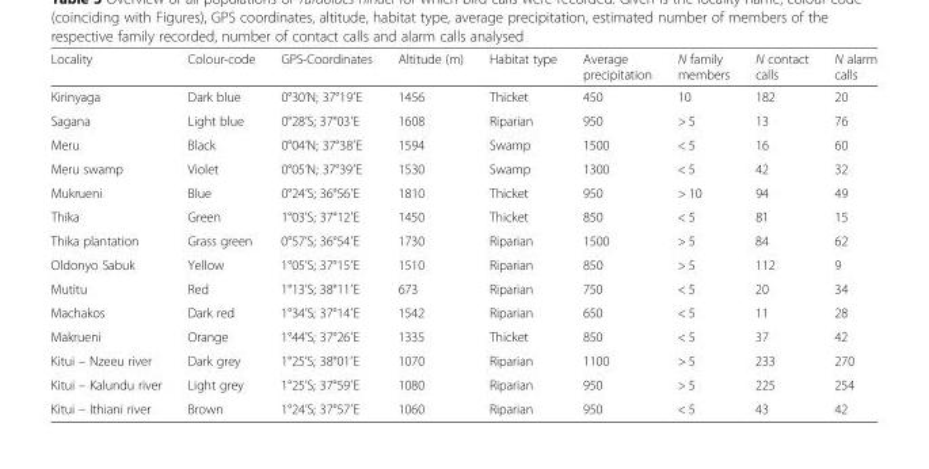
<table><thead><tr><td>Locality</td><td>Colour-code</td><td>GPS-Coordinates</td><td>Altitude (m)</td><td>Habitat type</td><td>Average precipitation</td><td>N family members</td><td>N contact calls</td><td>N alarm calls</td></tr></thead><tbody><tr><td>Kirinyaga</td><td>Dark blue</td><td>0°30’N; 37°19′E</td><td>1456</td><td>Thicket</td><td>450</td><td>10</td><td>182</td><td>20</td></tr><tr><td>Sagana</td><td>Light blue</td><td>0°28’S; 37°03′E</td><td>1608</td><td>Riparian</td><td>950</td><td>&gt; 5</td><td>13</td><td>76</td></tr><tr><td>Meru</td><td>Black</td><td>0°04’N; 37°38′E</td><td>1594</td><td>Swamp</td><td>1500</td><td>&lt; 5</td><td>16</td><td>60</td></tr><tr><td>Meru swamp</td><td>Violet</td><td>0°05’N; 37°39′E</td><td>1530</td><td>Swamp</td><td>1300</td><td>&lt; 5</td><td>42</td><td>32</td></tr><tr><td>Mukrueni</td><td>Blue</td><td>0°24’S; 36°56′E</td><td>1810</td><td>Thicket</td><td>950</td><td>&gt; 10</td><td>94</td><td>49</td></tr><tr><td>Thika</td><td>Green</td><td>1°03’S; 37°12′E</td><td>1450</td><td>Thicket</td><td>850</td><td>&lt; 5</td><td>81</td><td>15</td></tr><tr><td>Thika plantation</td><td>Grass green</td><td>0°57’S; 36°54′E</td><td>1730</td><td>Riparian</td><td>1500</td><td>&gt; 5</td><td>84</td><td>62</td></tr><tr><td>Oldonyo Sabuk</td><td>Yellow</td><td>1°05’S; 37°15′E</td><td>1510</td><td>Riparian</td><td>850</td><td>&gt; 5</td><td>112</td><td>9</td></tr><tr><td>Mutitu</td><td>Red</td><td>1°13’S; 38°11′E</td><td>673</td><td>Riparian</td><td>750</td><td>&lt; 5</td><td>20</td><td>34</td></tr><tr><td>Machakos</td><td>Dark red</td><td>1°34’S; 37°14′E</td><td>1542</td><td>Riparian</td><td>650</td><td>&lt; 5</td><td>11</td><td>28</td></tr><tr><td>Makrueni</td><td>Orange</td><td>1°44’S; 37°26′E</td><td>1335</td><td>Thicket</td><td>850</td><td>&lt; 5</td><td>37</td><td>42</td></tr><tr><td>Kitui – Nzeeu river</td><td>Dark grey</td><td>1°25’S; 38°01′E</td><td>1070</td><td>Riparian</td><td>1100</td><td>&gt; 5</td><td>233</td><td>270</td></tr><tr><td>Kitui – Kalundu river</td><td>Light grey</td><td>1°25’S; 37°59′E</td><td>1080</td><td>Riparian</td><td>950</td><td>&gt; 5</td><td>225</td><td>254</td></tr><tr><td>Kitui – Ithiani river</td><td>Brown</td><td>1°24’S; 37°57′E</td><td>1060</td><td>Riparian</td><td>950</td><td>&lt; 5</td><td>43</td><td>42</td></tr></tbody></table>